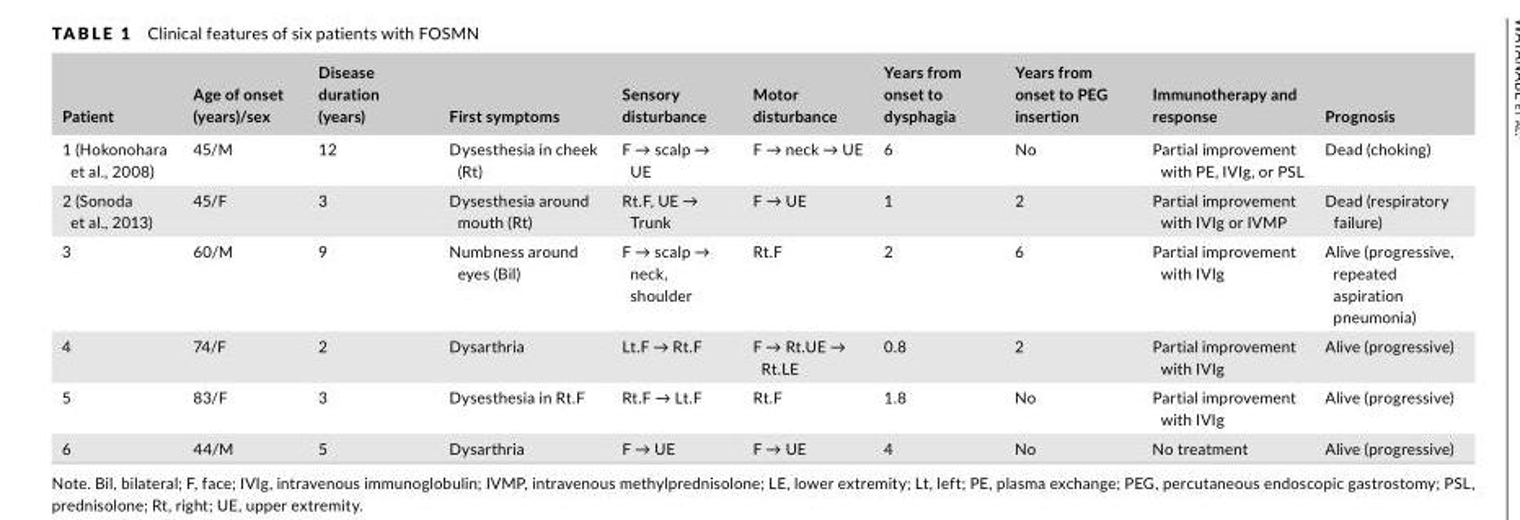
<table><thead><tr><td>Patient</td><td>Age of onset (years)/sex</td><td>Disease duration (years)</td><td>First symptoms</td><td>Sensory disturbance</td><td>Motor disturbance</td><td>Years from onset to dysphagia</td><td>Years from onset to PEG insertion</td><td>Immunotherapy and response</td><td>Prognosis</td></tr></thead><tbody><tr><td>1 (Hokonohara et al., 2008)</td><td>45/M</td><td>12</td><td>Dysesthesia in cheek (Rt)</td><td>F → scalp → UE</td><td>F → neck → UE</td><td>6</td><td>No</td><td>Partial improvement with PE, IVIg, or PSL</td><td>Dead (choking)</td></tr><tr><td>2 (Sonoda et al., 2013)</td><td>45/F</td><td>3</td><td>Dysesthesia around mouth (Rt)</td><td>Rt.F, UE → Trunk</td><td>F → UE</td><td>1</td><td>2</td><td>Partial improvement with IVIg or IVMP</td><td>Dead (respiratory failure)</td></tr><tr><td>3</td><td>60/M</td><td>9</td><td>Numbness around eyes (Bil)</td><td>F → scalp → neck, shoulder</td><td>Rt.F</td><td>2</td><td>6</td><td>Partial improvement with IVIg</td><td>Alive (progressive, repeated aspiration pneumonia)</td></tr><tr><td>4</td><td>74/F</td><td>2</td><td>Dysarthria</td><td>Lt.F → Rt.F</td><td>F → Rt.UE → Rt.LE</td><td>0.8</td><td>2</td><td>Partial improvement with IVIg</td><td>Alive (progressive)</td></tr><tr><td>5</td><td>83/F</td><td>3</td><td>Dysesthesia in Rt.F</td><td>Rt.F → Lt.F</td><td>Rt.F</td><td>1.8</td><td>No</td><td>Partial improvement with IVIg</td><td>Alive (progressive)</td></tr><tr><td>6</td><td>44/M</td><td>5</td><td>Dysarthria</td><td>F → UE</td><td>F → UE</td><td>4</td><td>No</td><td>No treatment</td><td>Alive (progressive)</td></tr></tbody></table>